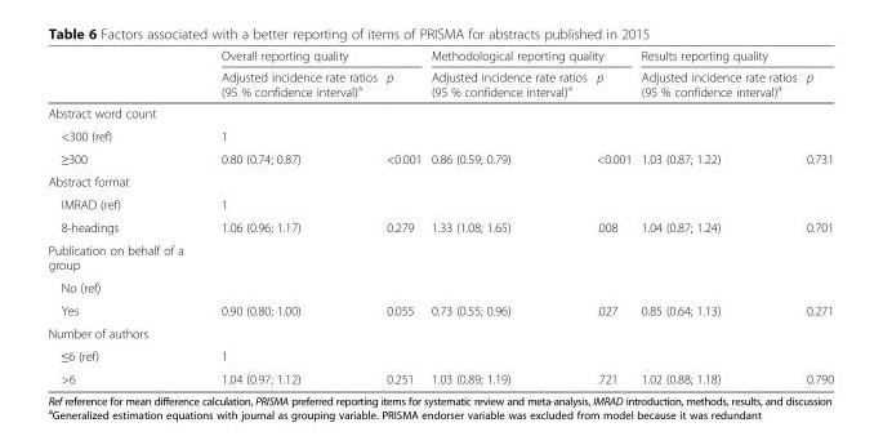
<table><thead><tr><td rowspan="2"></td><td colspan="2">Overall reporting quality</td><td colspan="2">Methodological reporting quality</td><td colspan="2">Results reporting quality</td></tr><tr><td>Adjusted incidence rate ratios (95 % confidence interval)<sup>a</sup></td><td>p</td><td>Adjusted incidence rate ratios (95 % confidence interval)<sup>a</sup></td><td>p</td><td>Adjusted incidence rate ratios (95 % confidence interval)<sup>a</sup></td><td>p</td></tr></thead><tbody><tr><td colspan="7">Abstract word count</td></tr><tr><td>&lt;300 (ref)</td><td>1</td><td></td><td></td><td></td><td></td><td></td></tr><tr><td>≥300</td><td>0.80 (0.74; 0.87)</td><td>&lt;0.001</td><td>0.86 (0.59; 0.79)</td><td>&lt;0.001</td><td>1.03 (0.87; 1.22)</td><td>0.731</td></tr><tr><td colspan="7">Abstract format</td></tr><tr><td>IMRAD (ref)</td><td>1</td><td></td><td></td><td></td><td></td><td></td></tr><tr><td>8-headings</td><td>1.06 (0.96; 1.17)</td><td>0.279</td><td>1.33 (1.08; 1.65)</td><td>.008</td><td>1.04 (0.87; 1.24)</td><td>0.701</td></tr><tr><td colspan="7">Publication on behalf of a group</td></tr><tr><td colspan="7">No (ref)</td></tr><tr><td>Yes</td><td>0.90 (0.80; 1.00)</td><td>0.055</td><td>0.73 (0.55; 0.96)</td><td>.027</td><td>0.85 (0.64; 1.13)</td><td>0.271</td></tr><tr><td colspan="7">Number of authors</td></tr><tr><td>≤6 (ref)</td><td>1</td><td></td><td></td><td></td><td></td><td></td></tr><tr><td>&gt;6</td><td>1.04 (0.97; 1.12)</td><td>0.251</td><td>1.03 (0.89; 1.19)</td><td>.721</td><td>1.02 (0.88; 1.18)</td><td>0.790</td></tr></tbody></table>